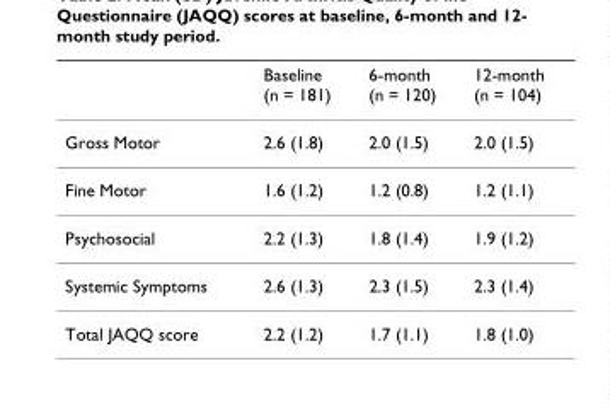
<table><thead><tr><td></td><td>Baseline (n = 181)</td><td>6-month (n = 120)</td><td>12-month (n = 104)</td></tr></thead><tbody><tr><td>Gross Motor</td><td>2.6 (1.8)</td><td>2.0 (1.5)</td><td>2.0 (1.5)</td></tr><tr><td>Fine Motor</td><td>1.6 (1.2)</td><td>1.2 (0.8)</td><td>1.2 (1.1)</td></tr><tr><td>Psychosocial</td><td>2.2 (1.3)</td><td>1.8 (1.4)</td><td>1.9 (1.2)</td></tr><tr><td>Systemic Symptoms</td><td>2.6 (1.3)</td><td>2.3 (1.5)</td><td>2.3 (1.4)</td></tr><tr><td>Total JAQQ score</td><td>2.2 (1.2)</td><td>1.7 (1.1)</td><td>1.8 (1.0)</td></tr></tbody></table>